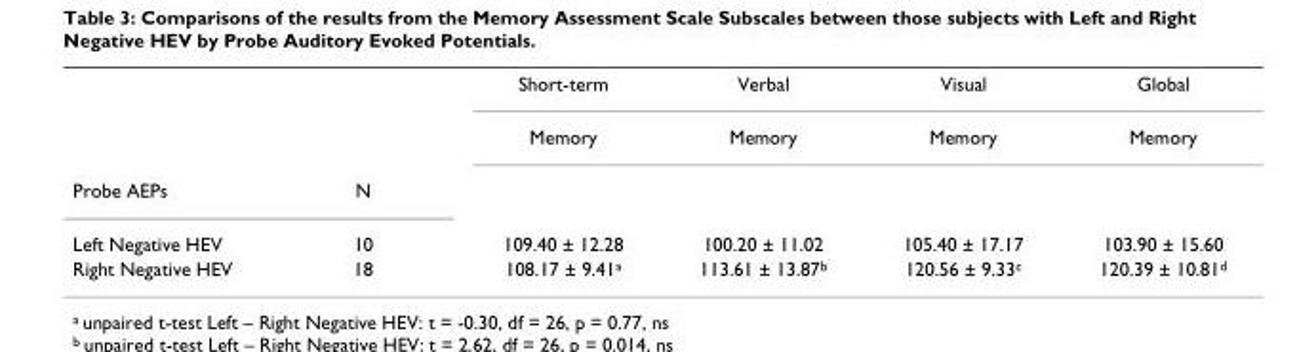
<table><thead><tr><td></td><td></td><td>Short-term</td><td>Verbal</td><td>Visual</td><td>Global</td></tr></thead><tbody><tr><td></td><td></td><td>Memory</td><td>Memory</td><td>Memory</td><td>Memory</td></tr><tr><td>Probe AEPs</td><td>N</td><td></td><td></td><td></td><td></td></tr><tr><td>Left Negative HEV</td><td>10</td><td>109.40 ± 12.28</td><td>100.20 ± 11.02</td><td>105.40 ± 17.17</td><td>103.90 ± 15.60</td></tr><tr><td>Right Negative HEV</td><td>18</td><td>108.17 ± 9.41<sup>a</sup></td><td>113.61 ± 13.87<sup>b</sup></td><td>120.56 ± 9.33<sup>c</sup></td><td>120.39 ± 10.81<sup>d</sup></td></tr></tbody></table>